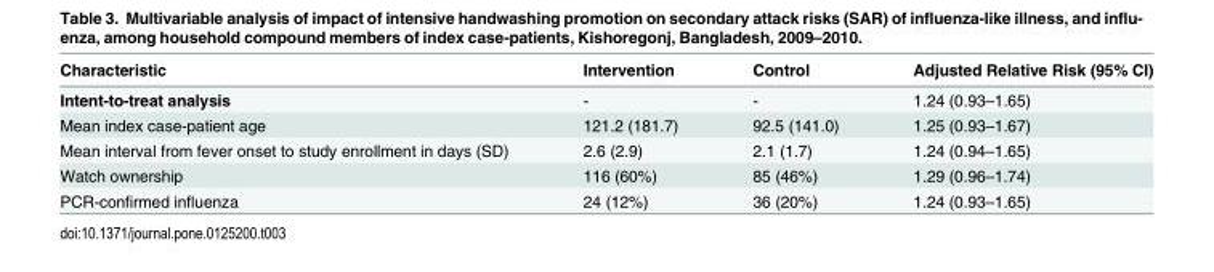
<table><thead><tr><td>Characteristic</td><td>Intervention</td><td>Control</td><td>Adjusted Relative Risk (95% CI)</td></tr></thead><tbody><tr><td>Intent-to-treat analysis</td><td>-</td><td>-</td><td>1.24 (0.93–1.65)</td></tr><tr><td>Mean index case-patient age</td><td>121.2 (181.7)</td><td>92.5 (141.0)</td><td>1.25 (0.93–1.67)</td></tr><tr><td>Mean interval from fever onset to study enrollment in days (SD)</td><td>2.6 (2.9)</td><td>2.1 (1.7)</td><td>1.24 (0.94–1.65)</td></tr><tr><td>Watch ownership</td><td>116 (60%)</td><td>85 (46%)</td><td>1.29 (0.96–1.74)</td></tr><tr><td>PCR-confirmed influenza</td><td>24 (12%)</td><td>36 (20%)</td><td>1.24 (0.93–1.65)</td></tr></tbody></table>